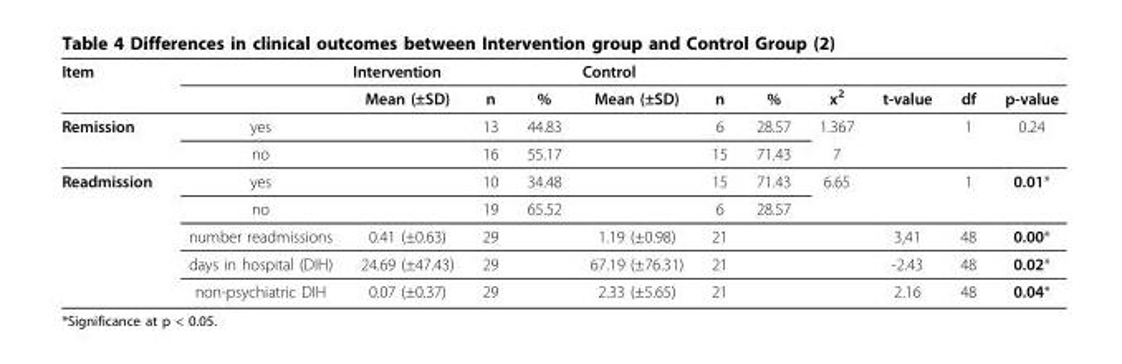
<table><thead><tr><td colspan="2">Item</td><td colspan="3">Intervention</td><td colspan="2">Control</td><td rowspan="2">%</td><td rowspan="2">x<sup>2</sup></td><td rowspan="2">t-value</td><td rowspan="2">df</td><td rowspan="2">p-value</td></tr><tr><td></td><td></td><td>Mean (±SD)</td><td>n</td><td>%</td><td>Mean (±SD)</td><td>n</td></tr></thead><tbody><tr><td rowspan="2">Remission</td><td>yes</td><td></td><td>13</td><td>44.83</td><td></td><td>6</td><td>28.57</td><td>1.367</td><td></td><td>1</td><td>0.24</td></tr><tr><td>no</td><td></td><td>16</td><td>55.17</td><td></td><td>15</td><td>71.43</td><td>7</td><td></td><td></td><td></td></tr><tr><td rowspan="5">Readmission</td><td>yes</td><td></td><td>10</td><td>34.48</td><td></td><td>15</td><td>71.43</td><td>6.65</td><td></td><td>1</td><td>0.01*</td></tr><tr><td>no</td><td></td><td>19</td><td>65.52</td><td></td><td>6</td><td>28.57</td><td></td><td></td><td></td><td></td></tr><tr><td>number readmissions</td><td>0.41 (±0.63)</td><td>29</td><td></td><td>1.19 (±0.98)</td><td>21</td><td></td><td></td><td>3,41</td><td>48</td><td>0.00*</td></tr><tr><td>days in hospital (DIH)</td><td>24.69 (±47.43)</td><td>29</td><td></td><td>67.19 (±76.31)</td><td>21</td><td></td><td></td><td>-2.43</td><td>48</td><td>0.02*</td></tr><tr><td>non-psychiatric DIH</td><td>0.07 (±0.37)</td><td>29</td><td></td><td>2.33 (±5.65)</td><td>21</td><td></td><td></td><td>2.16</td><td>48</td><td>0.04*</td></tr></tbody></table>